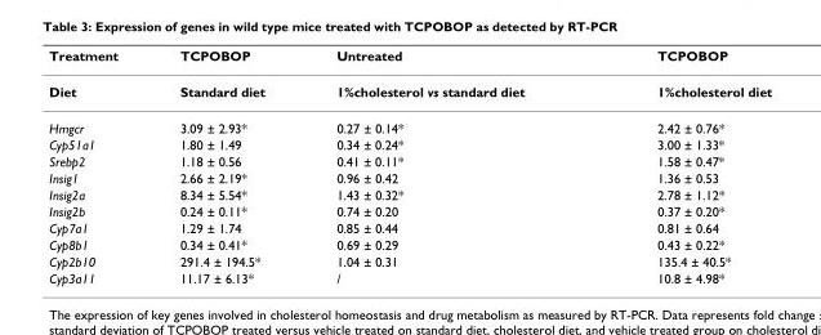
<table><thead><tr><td>Treatment</td><td>TCPOBOP</td><td>Untreated</td><td>TCPOBOP</td></tr></thead><tbody><tr><td>Diet</td><td>Standard diet</td><td>1%cholesterol vs standard diet</td><td>1%cholesterol diet</td></tr><tr><td>Hmgcr</td><td>3.09 ± 2.93*</td><td>0.27 ± 0.14*</td><td>2.42 ± 0.76*</td></tr><tr><td>Cyp51a1</td><td>1.80 ± 1.49</td><td>0.34 ± 0.24*</td><td>3.00 ± 1.33*</td></tr><tr><td>Srebp2</td><td>1.18 ± 0.56</td><td>0.41 ± 0.11*</td><td>1.58 ± 0.47*</td></tr><tr><td>Insig1</td><td>2.66 ± 2.19*</td><td>0.96 ± 0.42</td><td>1.36 ± 0.53</td></tr><tr><td>Insig2a</td><td>8.34 ± 5.54*</td><td>1.43 ± 0.32*</td><td>2.78 ± 1.12*</td></tr><tr><td>Insig2b</td><td>0.24 ± 0.11*</td><td>0.74 ± 0.20</td><td>0.37 ± 0.20*</td></tr><tr><td>Cyp7a1</td><td>1.29 ± 1.74</td><td>0.85 ± 0.44</td><td>0.81 ± 0.64</td></tr><tr><td>Cyp8b1</td><td>0.34 ± 0.41*</td><td>0.69 ± 0.29</td><td>0.43 ± 0.22*</td></tr><tr><td>Cyp2b10</td><td>291.4 ± 194.5*</td><td>1.04 ± 0.31</td><td>135.4 ± 40.5*</td></tr><tr><td>Cyp3a11</td><td>11.17 ± 6.13*</td><td>/</td><td>10.8 ± 4.98*</td></tr></tbody></table>